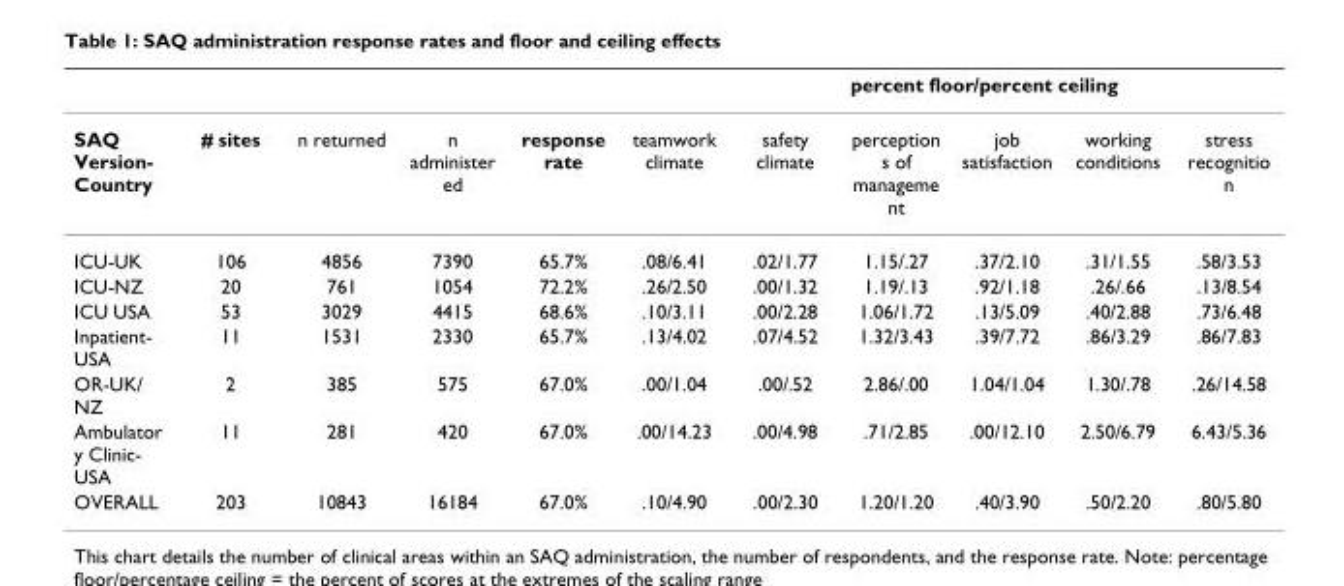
<table><thead><tr><td rowspan="2">SAQ Version- Country</td><td rowspan="2"># sites</td><td rowspan="2">n returned</td><td rowspan="2">n administer ed</td><td rowspan="2">response rate</td><td rowspan="2">teamwork climate</td><td rowspan="2">safety climate</td><td colspan="4">percent floor/percent ceiling</td></tr><tr><td>perception s of manageme nt</td><td>job satisfaction</td><td>working conditions</td><td>stress recognitio n</td></tr></thead><tbody><tr><td>ICU-UK</td><td>106</td><td>4856</td><td>7390</td><td>65.7%</td><td>.08/6.41</td><td>.02/1.77</td><td>1.15/.27</td><td>.37/2.10</td><td>.31/1.55</td><td>.58/3.53</td></tr><tr><td>ICU-NZ</td><td>20</td><td>761</td><td>1054</td><td>72.2%</td><td>.26/2.50</td><td>.00/1.32</td><td>1.19/.13</td><td>.92/1.18</td><td>.26/.66</td><td>.13/8.54</td></tr><tr><td>ICU USA</td><td>53</td><td>3029</td><td>4415</td><td>68.6%</td><td>.10/3.11</td><td>.00/2.28</td><td>1.06/1.72</td><td>.13/5.09</td><td>.40/2.88</td><td>.73/6.48</td></tr><tr><td>Inpatient- USA</td><td>11</td><td>1531</td><td>2330</td><td>65.7%</td><td>.13/4.02</td><td>.07/4.52</td><td>1.32/3.43</td><td>.39/7.72</td><td>.86/3.29</td><td>.86/7.83</td></tr><tr><td>OR-UK/ NZ</td><td>2</td><td>385</td><td>575</td><td>67.0%</td><td>.00/1.04</td><td>.00/.52</td><td>2.86/.00</td><td>1.04/1.04</td><td>1.30/.78</td><td>.26/14.58</td></tr><tr><td>Ambulator y Clinic- USA</td><td>11</td><td>281</td><td>420</td><td>67.0%</td><td>.00/14.23</td><td>.00/4.98</td><td>.71/2.85</td><td>.00/12.10</td><td>2.50/6.79</td><td>6.43/5.36</td></tr><tr><td>OVERALL</td><td>203</td><td>10843</td><td>16184</td><td>67.0%</td><td>.10/4.90</td><td>.00/2.30</td><td>1.20/1.20</td><td>.40/3.90</td><td>.50/2.20</td><td>.80/5.80</td></tr></tbody></table>